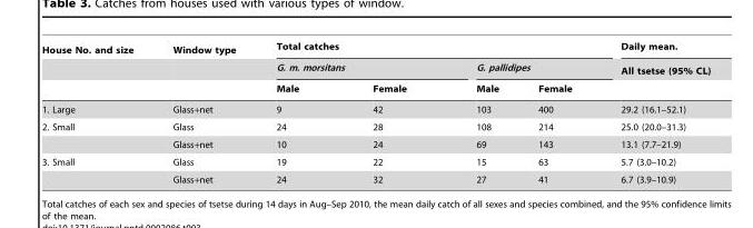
<table><thead><tr><td rowspan="3">House No. and size</td><td rowspan="3">Window type</td><td colspan="4">Total catches</td><td rowspan="3">Daily mean. All tsetse (95% CL)</td></tr><tr><td colspan="2">G. m. morsitans</td><td colspan="2">G. pallidipes</td></tr><tr><td>Male</td><td>Female</td><td>Male</td><td>Female</td></tr></thead><tbody><tr><td>1. Large</td><td>Glass+net</td><td>9</td><td>42</td><td>103</td><td>400</td><td>29.2 (16.1–52.1)</td></tr><tr><td rowspan="2">2. Small</td><td>Glass</td><td>24</td><td>28</td><td>108</td><td>214</td><td>25.0 (20.0–31.3)</td></tr><tr><td>Glass+net</td><td>10</td><td>24</td><td>69</td><td>143</td><td>13.1 (7.7–21.9)</td></tr><tr><td rowspan="2">3. Small</td><td>Glass</td><td>19</td><td>22</td><td>15</td><td>63</td><td>5.7 (3.0–10.2)</td></tr><tr><td>Glass+net</td><td>24</td><td>32</td><td>27</td><td>41</td><td>6.7 (3.9–10.9)</td></tr></tbody></table>